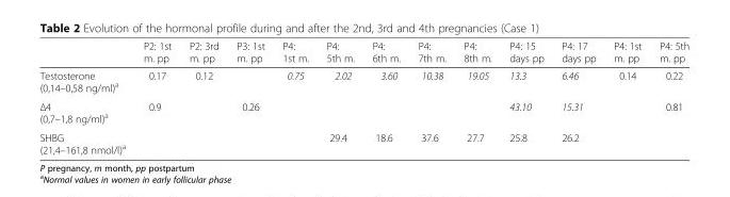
<table><thead><tr><td></td><td>P2: 1st m. pp</td><td>P2: 3rd m. pp</td><td>P3: 1st m. pp</td><td>P4: 1st m.</td><td>P4: 5th m.</td><td>P4: 6th m.</td><td>P4: 7th m.</td><td>P4: 8th m.</td><td>P4: 15 days pp</td><td>P4: 17 days pp</td><td>P4: 1st m. pp</td><td>P4: 5th m. pp</td></tr></thead><tbody><tr><td>Testosterone (0,14–0,58 ng/ml)<sup>a</sup></td><td>0.17</td><td>0.12</td><td></td><td>0.75</td><td>2.02</td><td>3.60</td><td>10.38</td><td>19.05</td><td>13.3</td><td>6.46</td><td>0.14</td><td>0.22</td></tr><tr><td>Δ4 (0,7–1,8 ng/ml)a</td><td>0.9</td><td></td><td>0.26</td><td></td><td></td><td></td><td></td><td></td><td>43.10</td><td>15.31</td><td></td><td>0.81</td></tr><tr><td>SHBG (21,4–161,8 nmol/l)<sup>a</sup></td><td></td><td></td><td></td><td></td><td>29.4</td><td>18.6</td><td>37.6</td><td>27.7</td><td>25.8</td><td>26.2</td><td></td><td></td></tr></tbody></table>